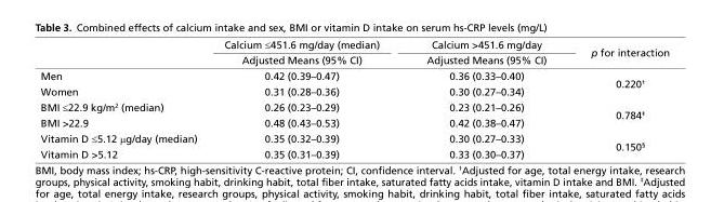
<table><thead><tr><td rowspan="2"></td><td rowspan="2">Calcium ≤451.6 mg/day (median) Adjusted Means (95% CI)</td><td rowspan="2">Calcium &gt;451.6 mg/day Adjusted Means (95% CI)</td><td rowspan="2">p for interaction</td></tr><tr></tr></thead><tbody><tr><td>Men</td><td>0.42 (0.39–0.47)</td><td>0.36 (0.33–0.40)</td><td rowspan="2">0.220<sup>†</sup></td></tr><tr><td>Women</td><td>0.31 (0.28–0.36)</td><td>0.30 (0.27–0.34)</td></tr><tr><td>BMI ≤22.9 kg/m<sup>2</sup> (median)</td><td>0.26 (0.23–0.29)</td><td>0.23 (0.21–0.26)</td><td rowspan="2">0.784<sup>‡</sup></td></tr><tr><td>BMI &gt;22.9</td><td>0.48 (0.43–0.53)</td><td>0.42 (0.38–0.47)</td></tr><tr><td>Vitamin D ≤5.12 μg/day (median)</td><td>0.35 (0.32–0.39)</td><td>0.30 (0.27–0.33)</td><td rowspan="2">0.150<sup>§</sup></td></tr><tr><td>Vitamin D &gt;5.12</td><td>0.35 (0.31–0.39)</td><td>0.33 (0.30–0.37)</td></tr></tbody></table>